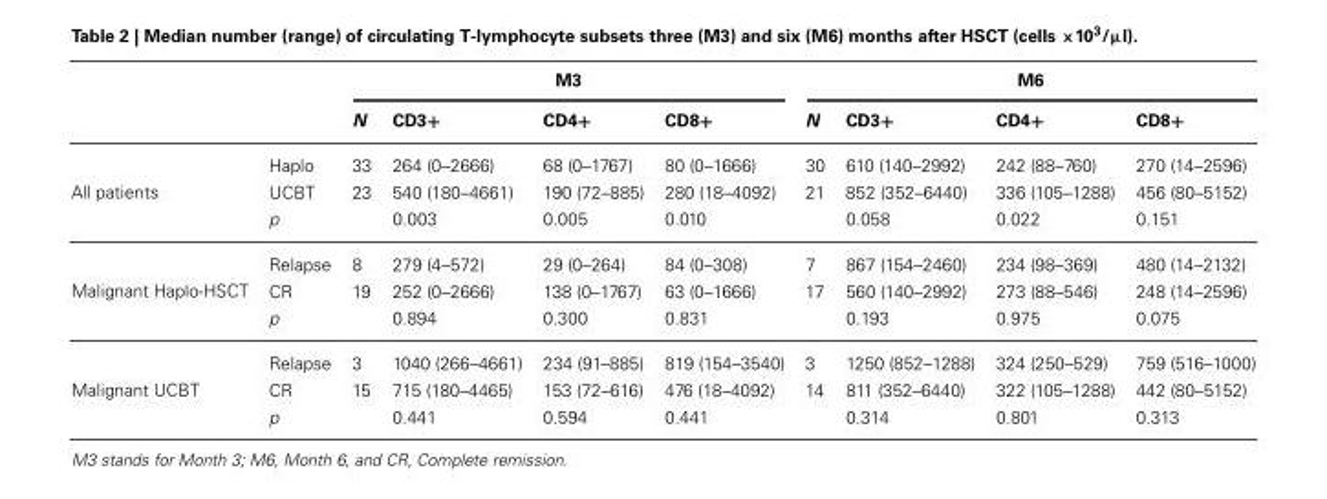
<table><thead><tr><td rowspan="2"></td><td rowspan="2"></td><td colspan="4">M3</td><td colspan="4">M6</td></tr><tr><td>N</td><td>CD3+</td><td>CD4+</td><td>CD8+</td><td>N</td><td>CD3+</td><td>CD4+</td><td>CD8+</td></tr></thead><tbody><tr><td rowspan="3">All patients</td><td>Haplo</td><td>33</td><td>264 (0–2666)</td><td>68 (0–1767)</td><td>80 (0–1666)</td><td>30</td><td>610 (140–2992)</td><td>242 (88–760)</td><td>270 (14–2596)</td></tr><tr><td>UCBT</td><td>23</td><td>540 (180–4661)</td><td>190 (72–885)</td><td>280 (18–4092)</td><td>21</td><td>852 (352–6440)</td><td>336 (105–1288)</td><td>456 (80–5152)</td></tr><tr><td>p</td><td></td><td>0.003</td><td>0.005</td><td>0.010</td><td></td><td>0.058</td><td>0.022</td><td>0.151</td></tr><tr><td rowspan="3">Malignant Haplo-HSCT</td><td>Relapse</td><td>8</td><td>279 (4–572)</td><td>29 (0–264)</td><td>84 (0–308)</td><td>7</td><td>867 (154–2460)</td><td>234 (98–369)</td><td>480 (14–2132)</td></tr><tr><td>CR</td><td>19</td><td>252 (0–2666)</td><td>138 (0–1767)</td><td>63 (0–1666)</td><td>17</td><td>560 (140–2992)</td><td>273 (88–546)</td><td>248 (14–2596)</td></tr><tr><td>p</td><td></td><td>0.894</td><td>0.300</td><td>0.831</td><td></td><td>0.193</td><td>0.975</td><td>0.075</td></tr><tr><td rowspan="3">Malignant UCBT</td><td>Relapse</td><td>3</td><td>1040 (266–4661)</td><td>234 (91–885)</td><td>819 (154–3540)</td><td>3</td><td>1250 (852–1288)</td><td>324 (250–529)</td><td>759 (516–1000)</td></tr><tr><td>CR</td><td>15</td><td>715 (180–4465)</td><td>153 (72–616)</td><td>476 (18–4092)</td><td>14</td><td>811 (352–6440)</td><td>322 (105–1288)</td><td>442 (80–5152)</td></tr><tr><td>p</td><td></td><td>0.441</td><td>0.594</td><td>0.441</td><td></td><td>0.314</td><td>0.801</td><td>0.313</td></tr></tbody></table>